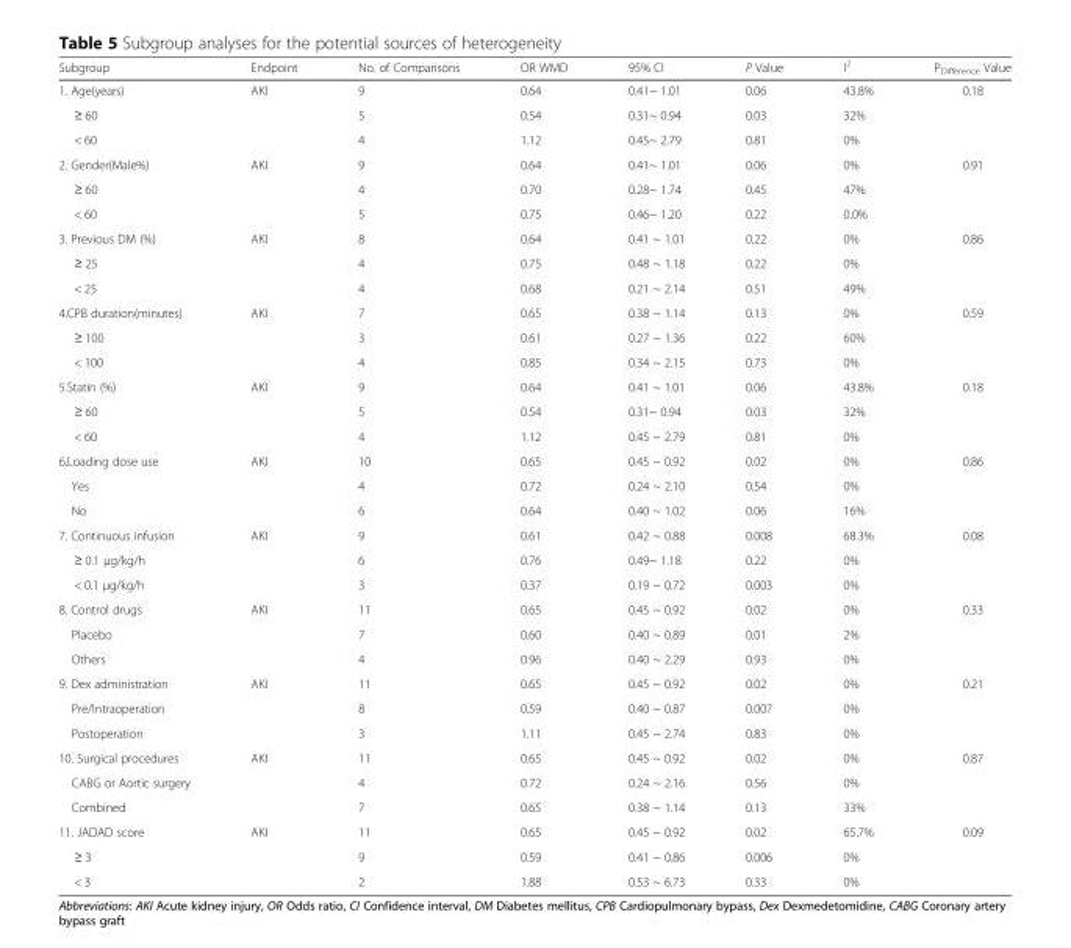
<table><thead><tr><td>Subgroup</td><td>Endpoint</td><td>No. of Comparisons</td><td>OR WMD</td><td>95% CI</td><td>P Value</td><td>I<sup>2</sup></td><td>P<sub>Difference</sub> Value</td></tr></thead><tbody><tr><td>1. Age(years)</td><td>AKI</td><td>9</td><td>0.64</td><td>0.41~ 1.01</td><td>0.06</td><td>43.8%</td><td>0.18</td></tr><tr><td>≥ 60</td><td></td><td>5</td><td>0.54</td><td>0.31~ 0.94</td><td>0.03</td><td>32%</td><td></td></tr><tr><td>&lt; 60</td><td></td><td>4</td><td>1.12</td><td>0.45~ 2.79</td><td>0.81</td><td>0%</td><td></td></tr><tr><td>2. Gender(Male%)</td><td>AKI</td><td>9</td><td>0.64</td><td>0.41~ 1.01</td><td>0.06</td><td>0%</td><td>0.91</td></tr><tr><td>≥ 60</td><td></td><td>4</td><td>0.70</td><td>0.28~ 1.74</td><td>0.45</td><td>47%</td><td></td></tr><tr><td>&lt; 60</td><td></td><td>5</td><td>0.75</td><td>0.46~ 1.20</td><td>0.22</td><td>0.0%</td><td></td></tr><tr><td>3. Previous DM (%)</td><td>AKI</td><td>8</td><td>0.64</td><td>0.41 ~ 1.01</td><td>0.22</td><td>0%</td><td>0.86</td></tr><tr><td>≥ 25</td><td></td><td>4</td><td>0.75</td><td>0.48 ~ 1.18</td><td>0.22</td><td>0%</td><td></td></tr><tr><td>&lt; 25</td><td></td><td>4</td><td>0.68</td><td>0.21 ~ 2.14</td><td>0.51</td><td>49%</td><td></td></tr><tr><td>4.CPB duration(minutes)</td><td>AKI</td><td>7</td><td>0.65</td><td>0.38 ~ 1.14</td><td>0.13</td><td>0%</td><td>0.59</td></tr><tr><td>≥ 100</td><td></td><td>3</td><td>0.61</td><td>0.27 ~ 1.36</td><td>0.22</td><td>60%</td><td></td></tr><tr><td>&lt; 100</td><td></td><td>4</td><td>0.85</td><td>0.34 ~ 2.15</td><td>0.73</td><td>0%</td><td></td></tr><tr><td>5.Statin (%)</td><td>AKI</td><td>9</td><td>0.64</td><td>0.41 ~ 1.01</td><td>0.06</td><td>43.8%</td><td>0.18</td></tr><tr><td>≥ 60</td><td></td><td>5</td><td>0.54</td><td>0.31~ 0.94</td><td>0.03</td><td>32%</td><td></td></tr><tr><td>&lt; 60</td><td></td><td>4</td><td>1.12</td><td>0.45 ~ 2.79</td><td>0.81</td><td>0%</td><td></td></tr><tr><td>6.Loading dose use</td><td>AKI</td><td>10</td><td>0.65</td><td>0.45 ~ 0.92</td><td>0.02</td><td>0%</td><td>0.86</td></tr><tr><td>Yes</td><td></td><td>4</td><td>0.72</td><td>0.24 ~ 2.10</td><td>0.54</td><td>0%</td><td></td></tr><tr><td>No</td><td></td><td>6</td><td>0.64</td><td>0.40 ~ 1.02</td><td>0.06</td><td>16%</td><td></td></tr><tr><td>7. Continuous infusion</td><td>AKI</td><td>9</td><td>0.61</td><td>0.42 ~ 0.88</td><td>0.008</td><td>68.3%</td><td>0.08</td></tr><tr><td>≥ 0.1 μg/kg/h</td><td></td><td>6</td><td>0.76</td><td>0.49~ 1.18</td><td>0.22</td><td>0%</td><td></td></tr><tr><td>&lt; 0.1 μg/kg/h</td><td></td><td>3</td><td>0.37</td><td>0.19 ~ 0.72</td><td>0.003</td><td>0%</td><td></td></tr><tr><td>8. Control drugs</td><td>AKI</td><td>11</td><td>0.65</td><td>0.45 ~ 0.92</td><td>0.02</td><td>0%</td><td>0.33</td></tr><tr><td>Placebo</td><td></td><td>7</td><td>0.60</td><td>0.40 ~ 0.89</td><td>0.01</td><td>2%</td><td></td></tr><tr><td>Others</td><td></td><td>4</td><td>0.96</td><td>0.40 ~ 2.29</td><td>0.93</td><td>0%</td><td></td></tr><tr><td>9. Dex administration</td><td>AKI</td><td>11</td><td>0.65</td><td>0.45 ~ 0.92</td><td>0.02</td><td>0%</td><td>0.21</td></tr><tr><td>Pre/Intraoperation</td><td></td><td>8</td><td>0.59</td><td>0.40 ~ 0.87</td><td>0.007</td><td>0%</td><td></td></tr><tr><td>Postoperation</td><td></td><td>3</td><td>1.11</td><td>0.45 ~ 2.74</td><td>0.83</td><td>0%</td><td></td></tr><tr><td>10. Surgical procedures</td><td>AKI</td><td>11</td><td>0.65</td><td>0.45 ~ 0.92</td><td>0.02</td><td>0%</td><td>0.87</td></tr><tr><td>CABG or Aortic surgery</td><td></td><td>4</td><td>0.72</td><td>0.24 ~ 2.16</td><td>0.56</td><td>0%</td><td></td></tr><tr><td>Combined</td><td></td><td>7</td><td>0.65</td><td>0.38 ~ 1.14</td><td>0.13</td><td>33%</td><td></td></tr><tr><td>11. JADAD score</td><td>AKI</td><td>11</td><td>0.65</td><td>0.45 ~ 0.92</td><td>0.02</td><td>65.7%</td><td>0.09</td></tr><tr><td>≥ 3</td><td></td><td>9</td><td>0.59</td><td>0.41 ~ 0.86</td><td>0.006</td><td>0%</td><td></td></tr><tr><td>&lt; 3</td><td></td><td>2</td><td>1.88</td><td>0.53 ~ 6.73</td><td>0.33</td><td>0%</td><td></td></tr></tbody></table>